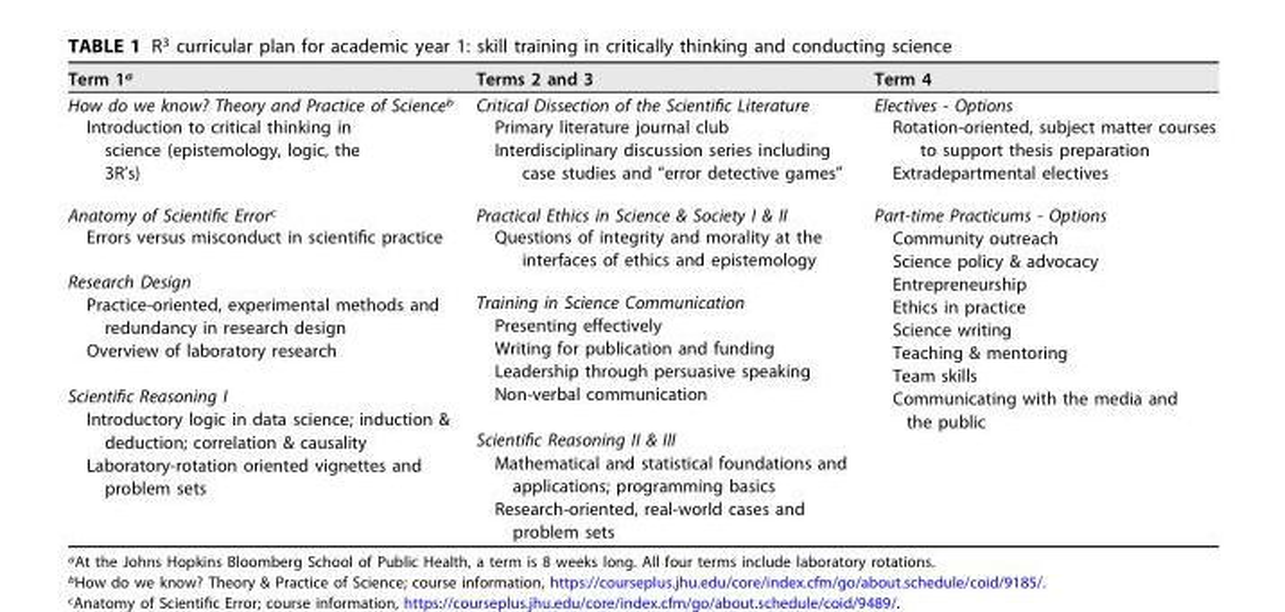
<table><thead><tr><td>Term 1<sup>a</sup></td><td>Terms 2 and 3</td><td>Term 4</td></tr></thead><tbody><tr><td>How do we know? Theory and Practice of Science<sup>b</sup></td><td>Critical Dissection of the Scientific Literature</td><td>Electives - Options</td></tr><tr><td>Introduction to critical thinking in science (epistemology, logic, the 3R’s)</td><td>Primary literature journal club Interdisciplinary discussion series including case studies and “error detective games”</td><td>Rotation-oriented, subject matter courses to support thesis preparation Extradepartmental electives</td></tr><tr><td>Anatomy of Scientific Error<sup>c</sup></td><td>Practical Ethics in Science &amp; Society I &amp; II</td><td rowspan="3">Part-time Practicums - Options Community outreach Science policy &amp; advocacy Entrepreneurship Ethics in practice Science writing Teaching &amp; mentoring Team skills Communicating with the media and the public</td></tr><tr><td>Errors versus misconduct in scientific practice</td><td>Questions of integrity and morality at the interfaces of ethics and epistemology</td></tr><tr><td>Research Design Practice-oriented, experimental methods and redundancy in research design Overview of laboratory research Scientific Reasoning I Introductory logic in data science; induction &amp; deduction; correlation &amp; causality Laboratory-rotation oriented vignettes and problem sets</td><td>Training in Science Communication Presenting effectively Writing for publication and funding Leadership through persuasive speaking Non-verbal communication Scientific Reasoning II &amp; III Mathematical and statistical foundations and applications; programming basics Research-oriented, real-world cases and problem sets</td></tr></tbody></table>